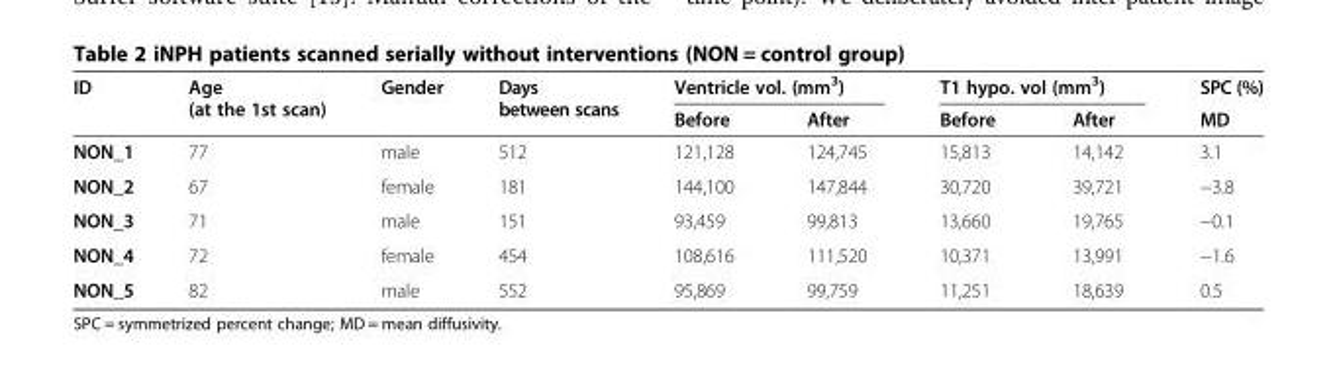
<table><thead><tr><td rowspan="2">ID</td><td rowspan="2">Age (at the 1st scan)</td><td rowspan="2">Gender</td><td rowspan="2">Days between scans</td><td colspan="2">Ventricle vol. (mm<sup>3</sup>)</td><td colspan="2">T1 hypo. vol (mm<sup>3</sup>)</td><td rowspan="2">SPC (%) MD</td></tr><tr><td>Before</td><td>After</td><td>Before</td><td>After</td></tr></thead><tbody><tr><td>NON_1</td><td>77</td><td>male</td><td>512</td><td>121,128</td><td>124,745</td><td>15,813</td><td>14,142</td><td>3.1</td></tr><tr><td>NON_2</td><td>67</td><td>female</td><td>181</td><td>144,100</td><td>147,844</td><td>30,720</td><td>39,721</td><td>−3.8</td></tr><tr><td>NON_3</td><td>71</td><td>male</td><td>151</td><td>93,459</td><td>99,813</td><td>13,660</td><td>19,765</td><td>−0.1</td></tr><tr><td>NON_4</td><td>72</td><td>female</td><td>454</td><td>108,616</td><td>111,520</td><td>10,371</td><td>13,991</td><td>−1.6</td></tr><tr><td>NON_5</td><td>82</td><td>male</td><td>552</td><td>95,869</td><td>99,759</td><td>11,251</td><td>18,639</td><td>0.5</td></tr></tbody></table>